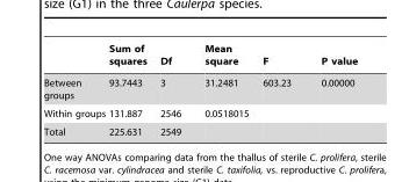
<table><thead><tr><td></td><td>Sum of squares</td><td>Df</td><td>Mean square</td><td>F</td><td>P value</td></tr></thead><tbody><tr><td>Between groups</td><td>93.7443</td><td>3</td><td>31.2481</td><td>603.23</td><td>0.00000</td></tr><tr><td>Within groups</td><td>131.887</td><td>2546</td><td>0.0518015</td><td></td><td></td></tr><tr><td>Total</td><td>225.631</td><td>2549</td><td></td><td></td><td></td></tr></tbody></table>